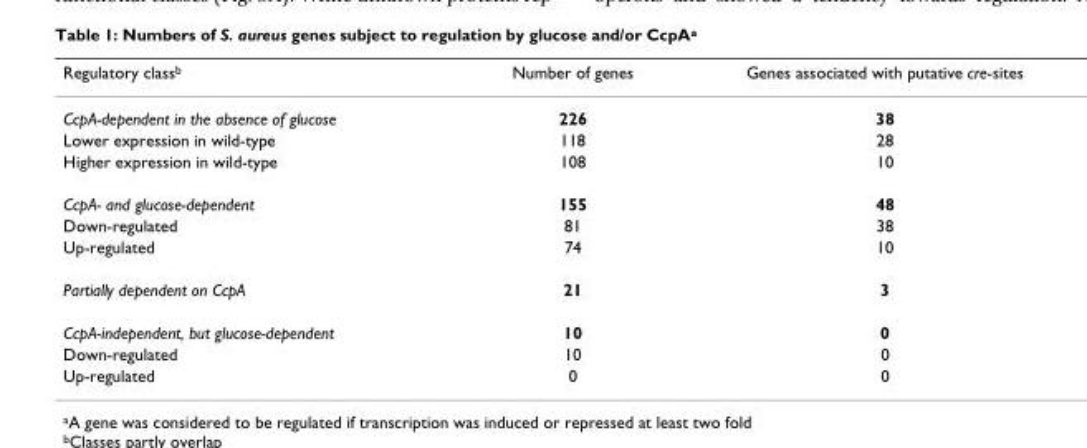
<table><thead><tr><td>Regulatory class<sup>b</sup></td><td>Number of genes</td><td>Genes associated with putative cre-sites</td></tr></thead><tbody><tr><td>CcpA-dependent in the absence of glucose</td><td>226</td><td>38</td></tr><tr><td>Lower expression in wild-type</td><td>118</td><td>28</td></tr><tr><td>Higher expression in wild-type</td><td>108</td><td>10</td></tr><tr><td>CcpA- and glucose-dependent</td><td>155</td><td>48</td></tr><tr><td>Down-regulated</td><td>81</td><td>38</td></tr><tr><td>Up-regulated</td><td>74</td><td>10</td></tr><tr><td>Partially dependent on CcpA</td><td>21</td><td>3</td></tr><tr><td>CcpA-independent, but glucose-dependent</td><td>10</td><td>0</td></tr><tr><td>Down-regulated</td><td>10</td><td>0</td></tr><tr><td>Up-regulated</td><td>0</td><td>0</td></tr></tbody></table>